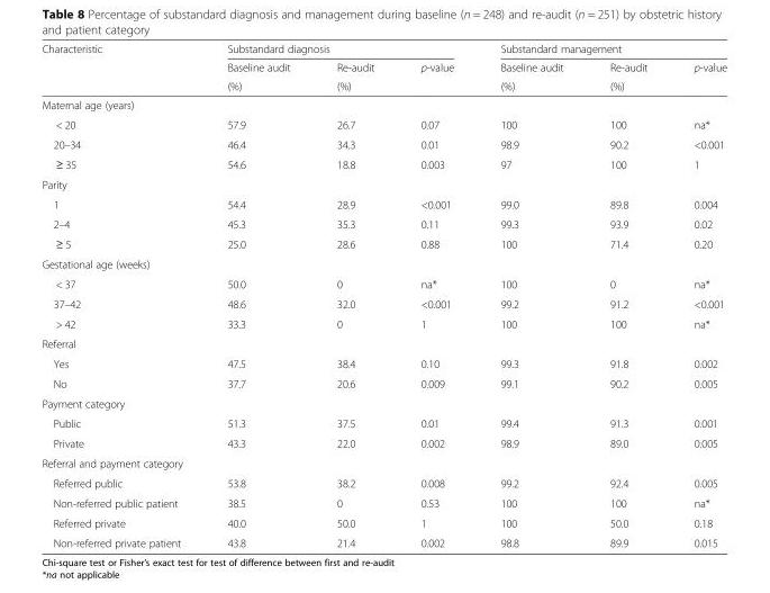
<table><thead><tr><td rowspan="3">Characteristic</td><td colspan="3">Substandard diagnosis</td><td colspan="3">Substandard management</td></tr><tr><td rowspan="2">Baseline audit (%)</td><td rowspan="2">Re-audit (%)</td><td rowspan="2">p-value</td><td rowspan="2">Baseline audit (%)</td><td rowspan="2">Re-audit (%)</td><td rowspan="2">p-value</td></tr><tr></tr></thead><tbody><tr><td colspan="7">Maternal age (years)</td></tr><tr><td>&lt; 20</td><td>57.9</td><td>26.7</td><td>0.07</td><td>100</td><td>100</td><td>na*</td></tr><tr><td>20–34</td><td>46.4</td><td>34.3</td><td>0.01</td><td>98.9</td><td>90.2</td><td>&lt;0.001</td></tr><tr><td>≥ 35</td><td>54.6</td><td>18.8</td><td>0.003</td><td>97</td><td>100</td><td>1</td></tr><tr><td colspan="7">Parity</td></tr><tr><td>1</td><td>54.4</td><td>28.9</td><td>&lt;0.001</td><td>99.0</td><td>89.8</td><td>0.004</td></tr><tr><td>2–4</td><td>45.3</td><td>35.3</td><td>0.11</td><td>99.3</td><td>93.9</td><td>0.02</td></tr><tr><td>≥ 5</td><td>25.0</td><td>28.6</td><td>0.88</td><td>100</td><td>71.4</td><td>0.20</td></tr><tr><td colspan="7">Gestational age (weeks)</td></tr><tr><td>&lt; 37</td><td>50.0</td><td>0</td><td>na*</td><td>100</td><td>0</td><td>na*</td></tr><tr><td>37–42</td><td>48.6</td><td>32.0</td><td>&lt;0.001</td><td>99.2</td><td>91.2</td><td>&lt;0.001</td></tr><tr><td>&gt; 42</td><td>33.3</td><td>0</td><td>1</td><td>100</td><td>100</td><td>na*</td></tr><tr><td colspan="7">Referral</td></tr><tr><td>Yes</td><td>47.5</td><td>38.4</td><td>0.10</td><td>99.3</td><td>91.8</td><td>0.002</td></tr><tr><td>No</td><td>37.7</td><td>20.6</td><td>0.009</td><td>99.1</td><td>90.2</td><td>0.005</td></tr><tr><td colspan="7">Payment category</td></tr><tr><td>Public</td><td>51.3</td><td>37.5</td><td>0.01</td><td>99.4</td><td>91.3</td><td>0.001</td></tr><tr><td>Private</td><td>43.3</td><td>22.0</td><td>0.002</td><td>98.9</td><td>89.0</td><td>0.005</td></tr><tr><td colspan="7">Referral and payment category</td></tr><tr><td>Referred public</td><td>53.8</td><td>38.2</td><td>0.008</td><td>99.2</td><td>92.4</td><td>0.005</td></tr><tr><td>Non-referred public patient</td><td>38.5</td><td>0</td><td>0.53</td><td>100</td><td>100</td><td>na*</td></tr><tr><td>Referred private</td><td>40.0</td><td>50.0</td><td>1</td><td>100</td><td>50.0</td><td>0.18</td></tr><tr><td>Non-referred private patient</td><td>43.8</td><td>21.4</td><td>0.002</td><td>98.8</td><td>89.9</td><td>0.015</td></tr></tbody></table>